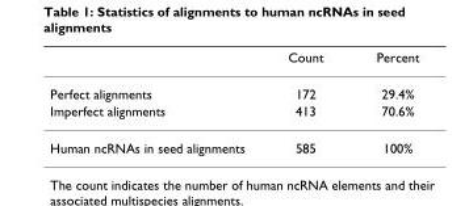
<table><thead><tr><td></td><td>Count</td><td>Percent</td></tr></thead><tbody><tr><td>Perfect alignments</td><td>172</td><td>29.4%</td></tr><tr><td>Imperfect alignments</td><td>413</td><td>70.6%</td></tr><tr><td>Human ncRNAs in seed alignments</td><td>585</td><td>100%</td></tr></tbody></table>